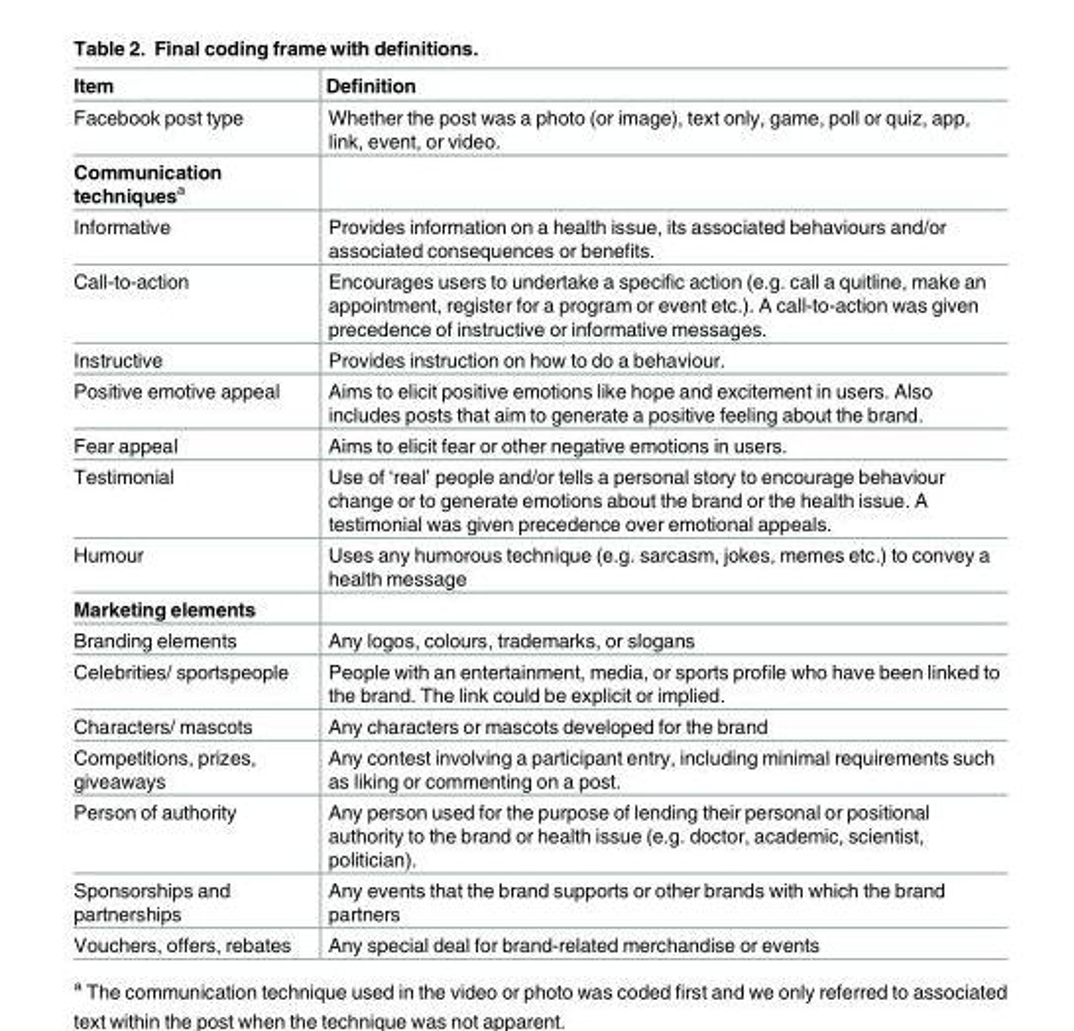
<table><thead><tr><td>Item</td><td>Definition</td></tr></thead><tbody><tr><td>Facebook post type</td><td>Whether the post was a photo (or image), text only, game, poll or quiz, app, link, event, or video.</td></tr><tr><td colspan="2">Communication techniques<sup>a</sup></td></tr><tr><td>Informative</td><td>Provides information on a health issue, its associated behaviours and/or associated consequences or benefits.</td></tr><tr><td>Call-to-action</td><td>Encourages users to undertake a specific action (e.g. call a quitline, make an appointment, register for a program or event etc.). A call-to-action was given precedence of instructive or informative messages.</td></tr><tr><td>Instructive</td><td>Provides instruction on how to do a behaviour.</td></tr><tr><td>Positive emotive appeal</td><td>Aims to elicit positive emotions like hope and excitement in users. Also includes posts that aim to generate a positive feeling about the brand.</td></tr><tr><td>Fear appeal</td><td>Aims to elicit fear or other negative emotions in users.</td></tr><tr><td>Testimonial</td><td>Use of ‘real’ people and/or tells a personal story to encourage behaviour change or to generate emotions about the brand or the health issue. A testimonial was given precedence over emotional appeals.</td></tr><tr><td>Humour</td><td>Uses any humorous technique (e.g. sarcasm, jokes, memes etc.) to convey a health message</td></tr><tr><td colspan="2">Marketing elements</td></tr><tr><td>Branding elements</td><td>Any logos, colours, trademarks, or slogans</td></tr><tr><td>Celebrities/ sportspeople</td><td>People with an entertainment, media, or sports profile who have been linked to the brand. The link could be explicit or implied.</td></tr><tr><td>Characters/ mascots</td><td>Any characters or mascots developed for the brand</td></tr><tr><td>Competitions, prizes, giveaways</td><td>Any contest involving a participant entry, including minimal requirements such as liking or commenting on a post.</td></tr><tr><td>Person of authority</td><td>Any person used for the purpose of lending their personal or positional authority to the brand or health issue (e.g. doctor, academic, scientist, politician).</td></tr><tr><td>Sponsorships and partnerships</td><td>Any events that the brand supports or other brands with which the brand partners</td></tr><tr><td>Vouchers, offers, rebates</td><td>Any special deal for brand-related merchandise or events</td></tr></tbody></table>